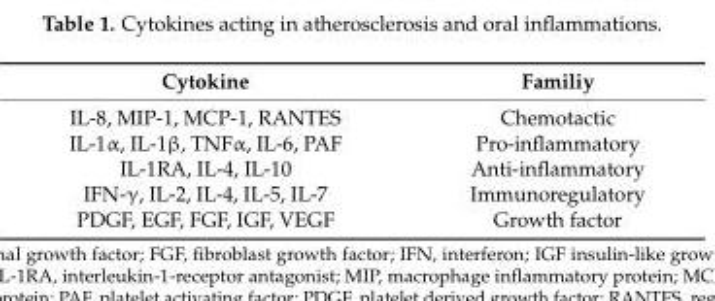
<table><thead><tr><td>Cytokine</td><td>Familiy</td></tr></thead><tbody><tr><td>IL-8, MIP-1, MCP-1, RANTES</td><td>Chemotactic</td></tr><tr><td>IL-1α, IL-1β, TNFα, IL-6, PAF</td><td>Pro-inflammatory</td></tr><tr><td>IL-1RA, IL-4, IL-10</td><td>Anti-inflammatory</td></tr><tr><td>IFN-γ, IL-2, IL-4, IL-5, IL-7</td><td>Immunoregulatory</td></tr><tr><td>PDGF, EGF, FGF, IGF, VEGF</td><td>Growth factor</td></tr></tbody></table>